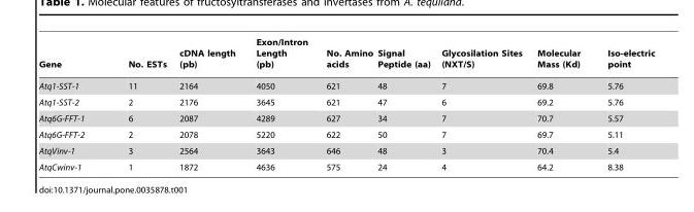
<table><thead><tr><td>Gene</td><td>No. ESTs</td><td>cDNA length (pb)</td><td>Exon/Intron Length (pb)</td><td>No. Amino acids</td><td>Signal Peptide (aa)</td><td>Glycosilation Sites (NXT/S)</td><td>Molecular Mass (Kd)</td><td>Iso-electric point</td></tr></thead><tbody><tr><td>Atq1-SST-1</td><td>11</td><td>2164</td><td>4050</td><td>621</td><td>48</td><td>7</td><td>69.8</td><td>5.76</td></tr><tr><td>Atq1-SST-2</td><td>2</td><td>2176</td><td>3645</td><td>621</td><td>47</td><td>6</td><td>69.2</td><td>5.76</td></tr><tr><td>Atq6G-FFT-1</td><td>6</td><td>2087</td><td>4289</td><td>627</td><td>34</td><td>7</td><td>70.7</td><td>5.57</td></tr><tr><td>Atq6G-FFT-2</td><td>2</td><td>2078</td><td>5220</td><td>622</td><td>50</td><td>7</td><td>69.7</td><td>5.11</td></tr><tr><td>AtqVinv-1</td><td>3</td><td>2564</td><td>3643</td><td>646</td><td>48</td><td>3</td><td>70.4</td><td>5.4</td></tr><tr><td>AtqCwinv-1</td><td>1</td><td>1872</td><td>4636</td><td>575</td><td>24</td><td>4</td><td>64.2</td><td>8.38</td></tr></tbody></table>